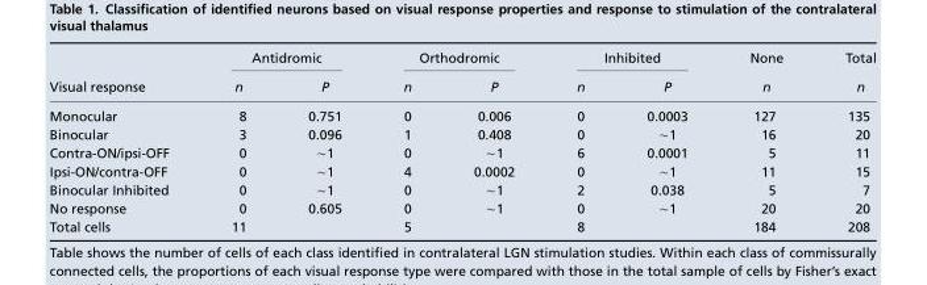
<table><thead><tr><td rowspan="2">Visual response</td><td colspan="2">Antidromic</td><td colspan="2">Orthodromic</td><td colspan="2">Inhibited</td><td rowspan="2">None n</td><td rowspan="2">Total n</td></tr><tr><td>n</td><td>P</td><td>n</td><td>P</td><td>n</td><td>P</td></tr></thead><tbody><tr><td>Monocular</td><td>8</td><td>0.751</td><td>0</td><td>0.006</td><td>0</td><td>0.0003</td><td>127</td><td>135</td></tr><tr><td>Binocular</td><td>3</td><td>0.096</td><td>1</td><td>0.408</td><td>0</td><td>∼1</td><td>16</td><td>20</td></tr><tr><td>Contra-ON/ipsi-OFF</td><td>0</td><td>∼1</td><td>0</td><td>∼1</td><td>6</td><td>0.0001</td><td>5</td><td>11</td></tr><tr><td>Ipsi-ON/contra-OFF</td><td>0</td><td>∼1</td><td>4</td><td>0.0002</td><td>0</td><td>∼1</td><td>11</td><td>15</td></tr><tr><td>Binocular Inhibited</td><td>0</td><td>∼1</td><td>0</td><td>∼1</td><td>2</td><td>0.038</td><td>5</td><td>7</td></tr><tr><td>No response</td><td>0</td><td>0.605</td><td>0</td><td>∼1</td><td>0</td><td>∼1</td><td>20</td><td>20</td></tr><tr><td>Total cells</td><td>11</td><td></td><td>5</td><td></td><td>8</td><td></td><td>184</td><td>208</td></tr></tbody></table>